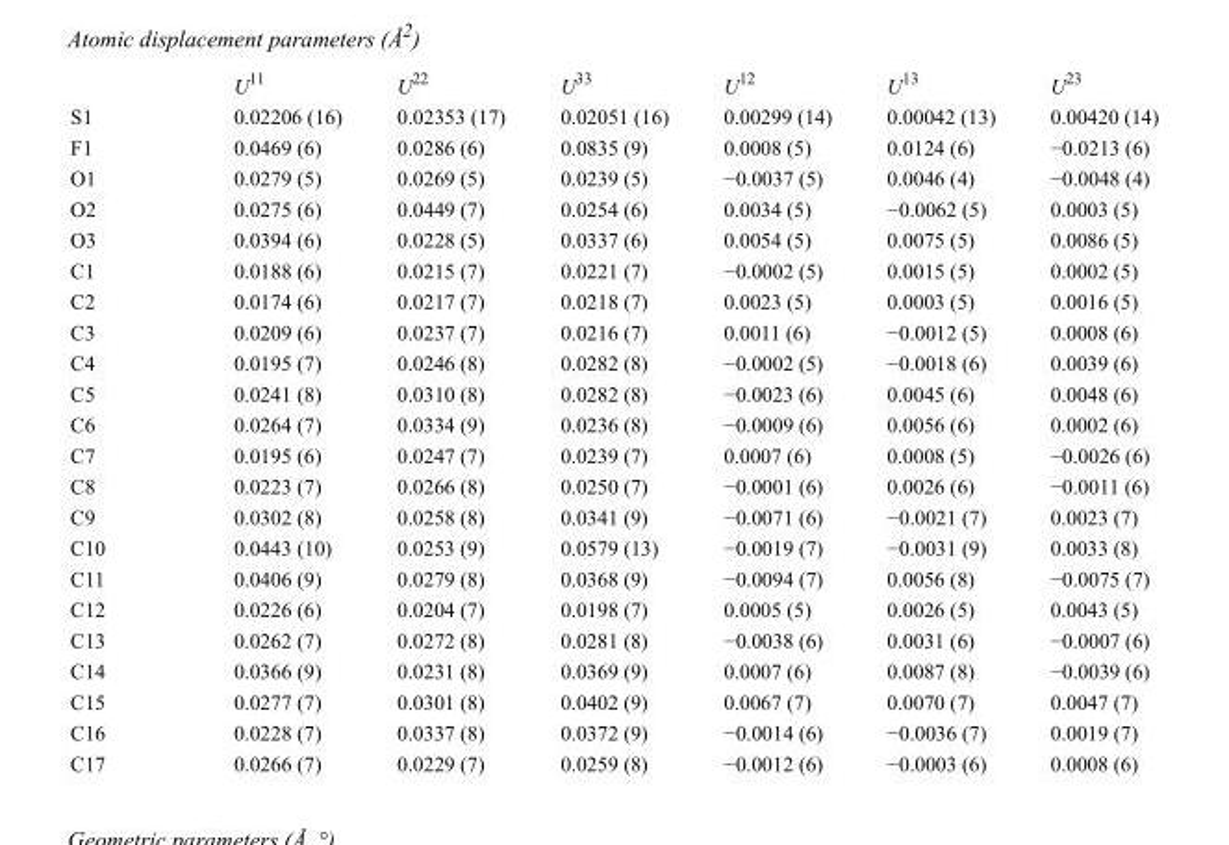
<table><thead><tr><td></td><td>U<sup>11</sup></td><td>U<sup>22</sup></td><td>U<sup>33</sup></td><td>U<sup>12</sup></td><td>U<sup>13</sup></td><td>U<sup>23</sup></td></tr></thead><tbody><tr><td>S1</td><td>0.02206 (16)</td><td>0.02353 (17)</td><td>0.02051 (16)</td><td>0.00299 (14)</td><td>0.00042 (13)</td><td>0.00420 (14)</td></tr><tr><td>F1</td><td>0.0469 (6)</td><td>0.0286 (6)</td><td>0.0835 (9)</td><td>0.0008 (5)</td><td>0.0124 (6)</td><td>−0.0213 (6)</td></tr><tr><td>O1</td><td>0.0279 (5)</td><td>0.0269 (5)</td><td>0.0239 (5)</td><td>−0.0037 (5)</td><td>0.0046 (4)</td><td>−0.0048 (4)</td></tr><tr><td>O2</td><td>0.0275 (6)</td><td>0.0449 (7)</td><td>0.0254 (6)</td><td>0.0034 (5)</td><td>−0.0062 (5)</td><td>0.0003 (5)</td></tr><tr><td>O3</td><td>0.0394 (6)</td><td>0.0228 (5)</td><td>0.0337 (6)</td><td>0.0054 (5)</td><td>0.0075 (5)</td><td>0.0086 (5)</td></tr><tr><td>C1</td><td>0.0188 (6)</td><td>0.0215 (7)</td><td>0.0221 (7)</td><td>−0.0002 (5)</td><td>0.0015 (5)</td><td>0.0002 (5)</td></tr><tr><td>C2</td><td>0.0174 (6)</td><td>0.0217 (7)</td><td>0.0218 (7)</td><td>0.0023 (5)</td><td>0.0003 (5)</td><td>0.0016 (5)</td></tr><tr><td>C3</td><td>0.0209 (6)</td><td>0.0237 (7)</td><td>0.0216 (7)</td><td>0.0011 (6)</td><td>−0.0012 (5)</td><td>0.0008 (6)</td></tr><tr><td>C4</td><td>0.0195 (7)</td><td>0.0246 (8)</td><td>0.0282 (8)</td><td>−0.0002 (5)</td><td>−0.0018 (6)</td><td>0.0039 (6)</td></tr><tr><td>C5</td><td>0.0241 (8)</td><td>0.0310 (8)</td><td>0.0282 (8)</td><td>−0.0023 (6)</td><td>0.0045 (6)</td><td>0.0048 (6)</td></tr><tr><td>C6</td><td>0.0264 (7)</td><td>0.0334 (9)</td><td>0.0236 (8)</td><td>−0.0009 (6)</td><td>0.0056 (6)</td><td>0.0002 (6)</td></tr><tr><td>C7</td><td>0.0195 (6)</td><td>0.0247 (7)</td><td>0.0239 (7)</td><td>0.0007 (6)</td><td>0.0008 (5)</td><td>−0.0026 (6)</td></tr><tr><td>C8</td><td>0.0223 (7)</td><td>0.0266 (8)</td><td>0.0250 (7)</td><td>−0.0001 (6)</td><td>0.0026 (6)</td><td>−0.0011 (6)</td></tr><tr><td>C9</td><td>0.0302 (8)</td><td>0.0258 (8)</td><td>0.0341 (9)</td><td>−0.0071 (6)</td><td>−0.0021 (7)</td><td>0.0023 (7)</td></tr><tr><td>C10</td><td>0.0443 (10)</td><td>0.0253 (9)</td><td>0.0579 (13)</td><td>−0.0019 (7)</td><td>−0.0031 (9)</td><td>0.0033 (8)</td></tr><tr><td>C11</td><td>0.0406 (9)</td><td>0.0279 (8)</td><td>0.0368 (9)</td><td>−0.0094 (7)</td><td>0.0056 (8)</td><td>−0.0075 (7)</td></tr><tr><td>C12</td><td>0.0226 (6)</td><td>0.0204 (7)</td><td>0.0198 (7)</td><td>0.0005 (5)</td><td>0.0026 (5)</td><td>0.0043 (5)</td></tr><tr><td>C13</td><td>0.0262 (7)</td><td>0.0272 (8)</td><td>0.0281 (8)</td><td>−0.0038 (6)</td><td>0.0031 (6)</td><td>−0.0007 (6)</td></tr><tr><td>C14</td><td>0.0366 (9)</td><td>0.0231 (8)</td><td>0.0369 (9)</td><td>0.0007 (6)</td><td>0.0087 (8)</td><td>−0.0039 (6)</td></tr><tr><td>C15</td><td>0.0277 (7)</td><td>0.0301 (8)</td><td>0.0402 (9)</td><td>0.0067 (7)</td><td>0.0070 (7)</td><td>0.0047 (7)</td></tr><tr><td>C16</td><td>0.0228 (7)</td><td>0.0337 (8)</td><td>0.0372 (9)</td><td>−0.0014 (6)</td><td>−0.0036 (7)</td><td>0.0019 (7)</td></tr><tr><td>C17</td><td>0.0266 (7)</td><td>0.0229 (7)</td><td>0.0259 (8)</td><td>−0.0012 (6)</td><td>−0.0003 (6)</td><td>0.0008 (6)</td></tr></tbody></table>